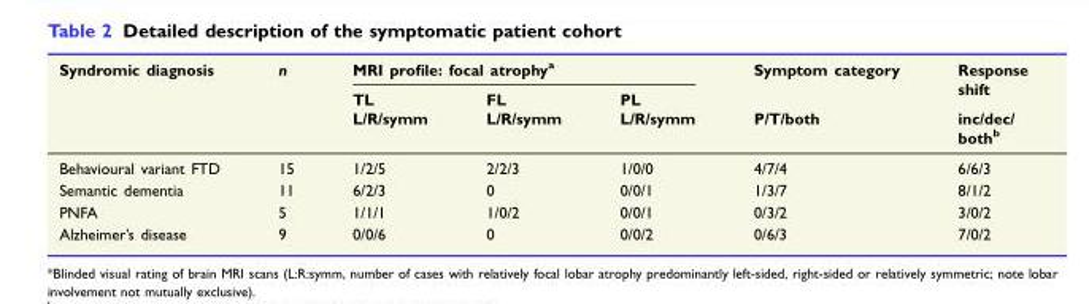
<table><thead><tr><td rowspan="3">Syndromic diagnosis</td><td rowspan="3">n</td><td colspan="3">MRI profile: focal atrophy<sup>a</sup></td><td rowspan="3">Symptom category P/T/both</td><td rowspan="3">Response shift inc/dec/ both<sup>b</sup></td></tr><tr><td rowspan="2">TL L/R/symm</td><td rowspan="2">FL L/R/symm</td><td rowspan="2">PL L/R/symm</td></tr><tr></tr></thead><tbody><tr><td>Behavioural variant FTD</td><td>15</td><td>1/2/5</td><td>2/2/3</td><td>1/0/0</td><td>4/7/4</td><td>6/6/3</td></tr><tr><td>Semantic dementia</td><td>11</td><td>6/2/3</td><td>0</td><td>0/0/1</td><td>1/3/7</td><td>8/1/2</td></tr><tr><td>PNFA</td><td>5</td><td>1/1/1</td><td>1/0/2</td><td>0/0/1</td><td>0/3/2</td><td>3/0/2</td></tr><tr><td>Alzheimer’s disease</td><td>9</td><td>0/0/6</td><td>0</td><td>0/0/2</td><td>0/6/3</td><td>7/0/2</td></tr></tbody></table>